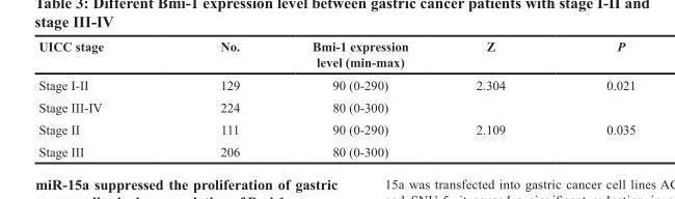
<table><thead><tr><td>UICC stage</td><td>No.</td><td>Bmi-1 expression level (min-max)</td><td>Z</td><td>P</td></tr></thead><tbody><tr><td>Stage I-II</td><td>129</td><td>90 (0-290)</td><td>2.304</td><td>0.021</td></tr><tr><td>Stage III-IV</td><td>224</td><td>80 (0-300)</td><td></td><td></td></tr><tr><td>Stage II</td><td>111</td><td>90 (0-290)</td><td>2.109</td><td>0.035</td></tr><tr><td>Stage III</td><td>206</td><td>80 (0-300)</td><td></td><td></td></tr></tbody></table>